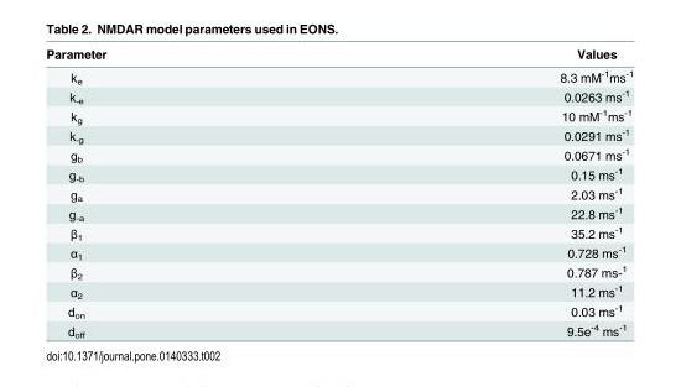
<table><thead><tr><td>Parameter</td><td>Values</td></tr></thead><tbody><tr><td>k<sub>e</sub></td><td>8.3 mM<sup>-1</sup>ms<sup>-1</sup></td></tr><tr><td>k<sub>-e</sub></td><td>0.0263 ms<sup>-1</sup></td></tr><tr><td>k<sub>g</sub></td><td>10 mM<sup>-1</sup>ms<sup>-1</sup></td></tr><tr><td>k<sub>-g</sub></td><td>0.0291 ms<sup>-1</sup></td></tr><tr><td>g<sub>b</sub></td><td>0.0671 ms<sup>-1</sup></td></tr><tr><td>g<sub>-b</sub></td><td>0.15 ms<sup>-1</sup></td></tr><tr><td>g<sub>a</sub></td><td>2.03 ms<sup>-1</sup></td></tr><tr><td>g<sub>-a</sub></td><td>22.8 ms<sup>-1</sup></td></tr><tr><td>β<sub>1</sub></td><td>35.2 ms<sup>-1</sup></td></tr><tr><td>α<sub>1</sub></td><td>0.728 ms<sup>-1</sup></td></tr><tr><td>β<sub>2</sub></td><td>0.787 ms-<sup>1</sup></td></tr><tr><td>α<sub>2</sub></td><td>11.2 ms<sup>-1</sup></td></tr><tr><td>d<sub>on</sub></td><td>0.03 ms<sup>-1</sup></td></tr><tr><td>d<sub>off</sub></td><td>9.5e<sup>-4</sup> ms<sup>-1</sup></td></tr></tbody></table>